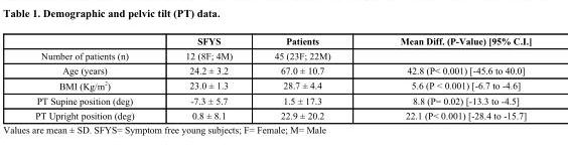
<table><thead><tr><td></td><td>SFYS</td><td>Patients</td><td>Mean Diff. (P-Value) [95% C.I.]</td></tr></thead><tbody><tr><td>Number of patients (n)</td><td>12 (8F; 4M)</td><td>45 (23F; 22M)</td><td></td></tr><tr><td>Age (years)</td><td>24.2 ± 3.2</td><td>67.0 ± 10.7</td><td>42.8 (P&lt; 0.001) [-45.6 to 40.0]</td></tr><tr><td>BMI (Kg/m <sup>2</sup>)</td><td>23.0 ± 1.3</td><td>28.7 ± 4.4</td><td>5.6 (P &lt; 0.001) [-6.7 to -4.6]</td></tr><tr><td>PT Supine position (deg)</td><td>-7.3 ± 5.7</td><td>1.5 ± 17.3</td><td>8.8 (P= 0.02) [-13.3 to -4.5]</td></tr><tr><td>PT Upright position (deg)</td><td>0.8 ± 8.1</td><td>22.9 ± 20.2</td><td>22.1 (P&lt; 0.001) [-28.4 to -15.7]</td></tr></tbody></table>